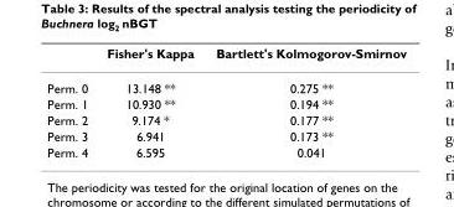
<table><thead><tr><td></td><td>Fisher&#x27;s Kappa</td><td>Bartlett&#x27;s Kolmogorov-Smirnov</td></tr></thead><tbody><tr><td>Perm. 0</td><td>13.148 **</td><td>0.275 **</td></tr><tr><td>Perm. 1</td><td>10.930 **</td><td>0.194 **</td></tr><tr><td>Perm. 2</td><td>9.174 *</td><td>0.177 **</td></tr><tr><td>Perm. 3</td><td>6.941</td><td>0.173 **</td></tr><tr><td>Perm. 4</td><td>6.595</td><td>0.041</td></tr></tbody></table>